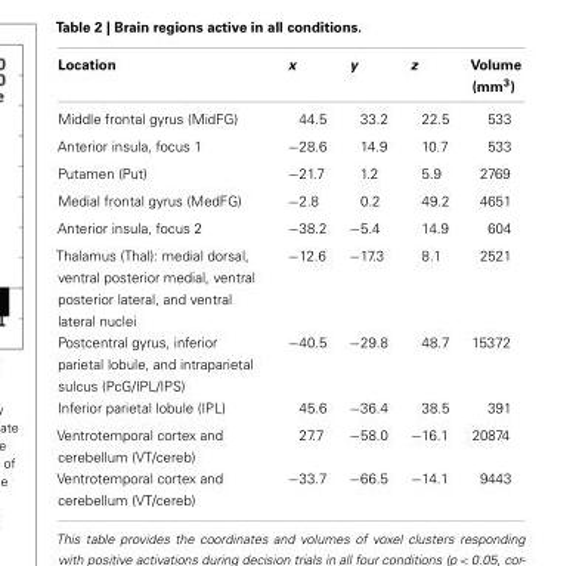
<table><thead><tr><td>Location</td><td>x</td><td>y</td><td>z</td><td>Volume (mm<sup>3</sup>)</td></tr></thead><tbody><tr><td>Middle frontal gyrus (MidFG)</td><td>44.5</td><td>33.2</td><td>22.5</td><td>533</td></tr><tr><td>Anterior insula, focus 1</td><td>−28.6</td><td>14.9</td><td>10.7</td><td>533</td></tr><tr><td>Putamen (Put)</td><td>−21.7</td><td>1.2</td><td>5.9</td><td>2769</td></tr><tr><td>Medial frontal gyrus (MedFG)</td><td>−2.8</td><td>0.2</td><td>49.2</td><td>4651</td></tr><tr><td>Anterior insula, focus 2</td><td>−38.2</td><td>−5.4</td><td>14.9</td><td>604</td></tr><tr><td>Thalamus (Thal): medial dorsal, ventral posterior medial, ventral posterior lateral, and ventral lateral nuclei</td><td>−12.6</td><td>−17.3</td><td>8.1</td><td>2521</td></tr><tr><td>Postcentral gyrus, inferior parietal lobule, and intraparietal sulcus (PcG/IPL/IPS)</td><td>−40.5</td><td>−29.8</td><td>48.7</td><td>15372</td></tr><tr><td>Inferior parietal lobule (IPL)</td><td>45.6</td><td>−36.4</td><td>38.5</td><td>391</td></tr><tr><td>Ventrotemporal cortex and cerebellum (VT/cereb)</td><td>27.7</td><td>−58.0</td><td>−16.1</td><td>20874</td></tr><tr><td>Ventrotemporal cortex and cerebellum (VT/cereb)</td><td>−33.7</td><td>−66.5</td><td>−14.1</td><td>9443</td></tr></tbody></table>